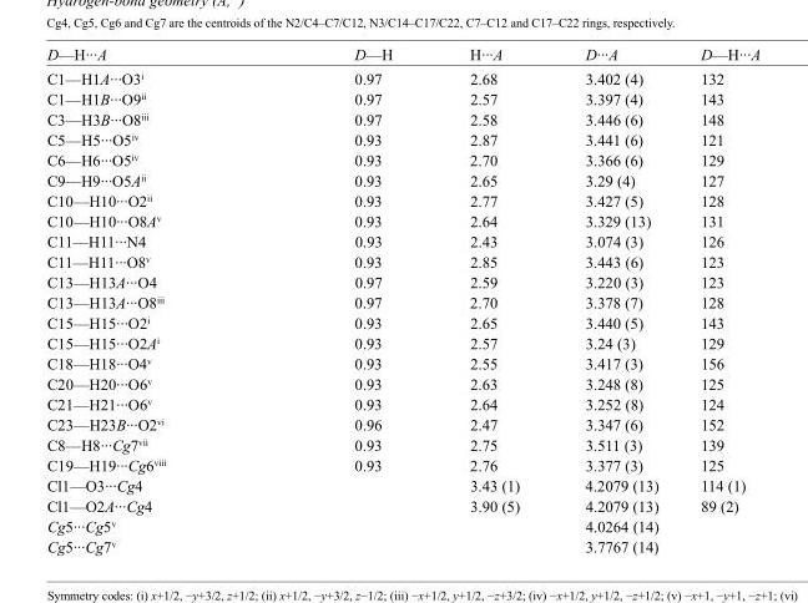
<table><tbody><tr><td>D—H···A</td><td>D—H</td><td>H···A</td><td>D···A</td><td>D—H···A</td></tr><tr><td>C1—H1A···O3<sup>i</sup></td><td>0.97</td><td>2.68</td><td>3.402 (4)</td><td>132</td></tr><tr><td>C1—H1B···O9<sup>ii</sup></td><td>0.97</td><td>2.57</td><td>3.397 (4)</td><td>143</td></tr><tr><td>C3—H3B···O8<sup>iii</sup></td><td>0.97</td><td>2.58</td><td>3.446 (6)</td><td>148</td></tr><tr><td>C5—H5···O5<sup>iv</sup></td><td>0.93</td><td>2.87</td><td>3.441 (6)</td><td>121</td></tr><tr><td>C6—H6···O5<sup>iv</sup></td><td>0.93</td><td>2.70</td><td>3.366 (6)</td><td>129</td></tr><tr><td>C9—H9···O5A<sup>ii</sup></td><td>0.93</td><td>2.65</td><td>3.29 (4)</td><td>127</td></tr><tr><td>C10—H10···O2<sup>ii</sup></td><td>0.93</td><td>2.77</td><td>3.427 (5)</td><td>128</td></tr><tr><td>C10—H10···O8A<sup>v</sup></td><td>0.93</td><td>2.64</td><td>3.329 (13)</td><td>131</td></tr><tr><td>C11—H11···N4</td><td>0.93</td><td>2.43</td><td>3.074 (3)</td><td>126</td></tr><tr><td>C11—H11···O8<sup>v</sup></td><td>0.93</td><td>2.85</td><td>3.443 (6)</td><td>123</td></tr><tr><td>C13—H13A···O4</td><td>0.97</td><td>2.59</td><td>3.220 (3)</td><td>123</td></tr><tr><td>C13—H13A···O8<sup>iii</sup></td><td>0.97</td><td>2.70</td><td>3.378 (7)</td><td>128</td></tr><tr><td>C15—H15···O2<sup>i</sup></td><td>0.93</td><td>2.65</td><td>3.440 (5)</td><td>143</td></tr><tr><td>C15—H15···O2A<sup>i</sup></td><td>0.93</td><td>2.57</td><td>3.24 (3)</td><td>129</td></tr><tr><td>C18—H18···O4<sup>v</sup></td><td>0.93</td><td>2.55</td><td>3.417 (3)</td><td>156</td></tr><tr><td>C20—H20···O6<sup>v</sup></td><td>0.93</td><td>2.63</td><td>3.248 (8)</td><td>125</td></tr><tr><td>C21—H21···O6<sup>v</sup></td><td>0.93</td><td>2.64</td><td>3.252 (8)</td><td>124</td></tr><tr><td>C23—H23B···O2<sup>vi</sup></td><td>0.96</td><td>2.47</td><td>3.347 (6)</td><td>152</td></tr><tr><td>C8—H8···Cg7<sup>vii</sup></td><td>0.93</td><td>2.75</td><td>3.511 (3)</td><td>139</td></tr><tr><td>C19—H19···Cg6<sup>viii</sup></td><td>0.93</td><td>2.76</td><td>3.377 (3)</td><td>125</td></tr><tr><td>Cl1—O3···Cg4</td><td></td><td>3.43 (1)</td><td>4.2079 (13)</td><td>114 (1)</td></tr><tr><td>Cl1—O2A···Cg4</td><td></td><td>3.90 (5)</td><td>4.2079 (13)</td><td>89 (2)</td></tr><tr><td>Cg5···Cg5<sup>v</sup></td><td></td><td></td><td>4.0264 (14)</td><td></td></tr><tr><td>Cg5···Cg7<sup>v</sup></td><td></td><td></td><td>3.7767 (14)</td><td></td></tr></tbody></table>